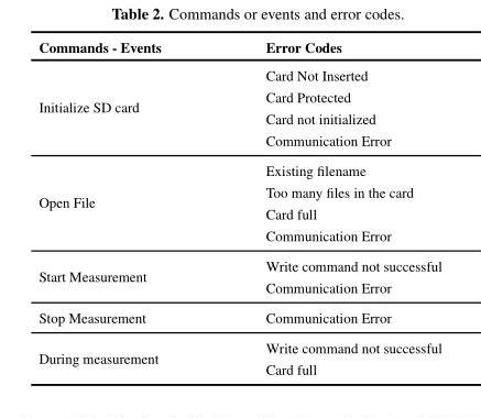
<table><thead><tr><td>Commands - Events</td><td>Error Codes</td></tr></thead><tbody><tr><td rowspan="4">Initialize SD card</td><td>Card Not Inserted</td></tr><tr><td>Card Protected</td></tr><tr><td>Card not initialized</td></tr><tr><td>Communication Error</td></tr><tr><td rowspan="4">Open File</td><td>Existing filename</td></tr><tr><td>Too many files in the card</td></tr><tr><td>Card full</td></tr><tr><td>Communication Error</td></tr><tr><td rowspan="2">Start Measurement</td><td>Write command not successful</td></tr><tr><td>Communication Error</td></tr><tr><td>Stop Measurement</td><td>Communication Error</td></tr><tr><td rowspan="2">During measurement</td><td>Write command not successful</td></tr><tr><td>Card full</td></tr></tbody></table>